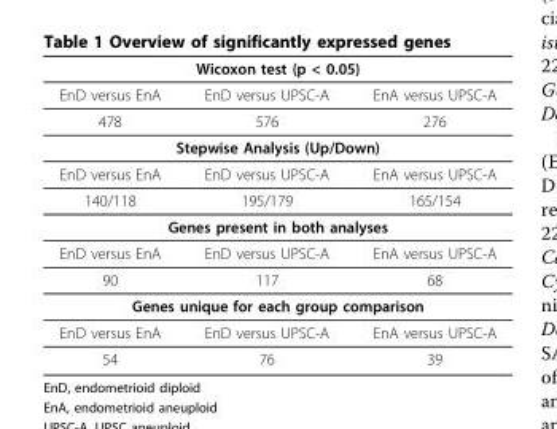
<table><thead><tr><td colspan="3">Wicoxon test (p &lt; 0.05)</td></tr><tr><td>EnD versus EnA</td><td>EnD versus UPSC-A</td><td>EnA versus UPSC-A</td></tr></thead><tbody><tr><td>478</td><td>576</td><td>276</td></tr><tr><td colspan="3">Stepwise Analysis (Up/Down)</td></tr><tr><td>EnD versus EnA</td><td>EnD versus UPSC-A</td><td>EnA versus UPSC-A</td></tr><tr><td>140/118</td><td>195/179</td><td>165/154</td></tr><tr><td colspan="3">Genes present in both analyses</td></tr><tr><td>EnD versus EnA</td><td>EnD versus UPSC-A</td><td>EnA versus UPSC-A</td></tr><tr><td>90</td><td>117</td><td>68</td></tr><tr><td colspan="3">Genes unique for each group comparison</td></tr><tr><td>EnD versus EnA</td><td>EnD versus UPSC-A</td><td>EnA versus UPSC-A</td></tr><tr><td>54</td><td>76</td><td>39</td></tr></tbody></table>